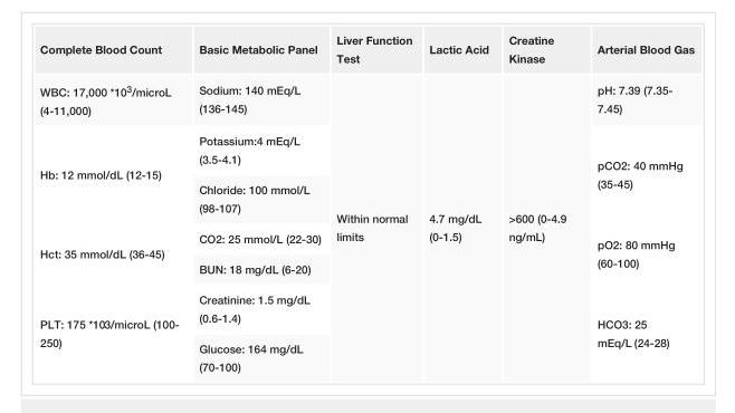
<table><tbody><tr><td>Complete Blood Count</td><td>Basic Metabolic Panel</td><td>Liver Function Test</td><td>Lactic Acid</td><td>Creatine Kinase</td><td>Arterial Blood Gas</td></tr><tr><td>WBC: 17,000 *10<sup>3</sup>/microL (4-11,000)</td><td>Sodium: 140 mEq/L (136-145)</td><td rowspan="7">Within normal limits</td><td rowspan="7">4.7 mg/dL (0-1.5)</td><td rowspan="7">&gt;600 (0-4.9 ng/mL)</td><td>pH: 7.39 (7.35- 7.45)</td></tr><tr><td rowspan="2">Hb: 12 mmol/dL (12-15)</td><td>Potassium:4 mEq/L (3.5-4.1)</td><td rowspan="2">pCO2: 40 mmHg (35-45)</td></tr><tr><td>Chloride: 100 mmol/L (98-107)</td></tr><tr><td rowspan="2">Hct: 35 mmol/dL (36-45)</td><td>CO2: 25 mmol/L (22-30)</td><td rowspan="2">pO2: 80 mmHg (60-100)</td></tr><tr><td>BUN: 18 mg/dL (6-20)</td></tr><tr><td rowspan="2">PLT: 175 *103/microL (100- 250)</td><td>Creatinine: 1.5 mg/dL (0.6-1.4)</td><td rowspan="2">HCO3: 25 mEq/L (24-28)</td></tr><tr><td>Glucose: 164 mg/dL (70-100)</td></tr></tbody></table>